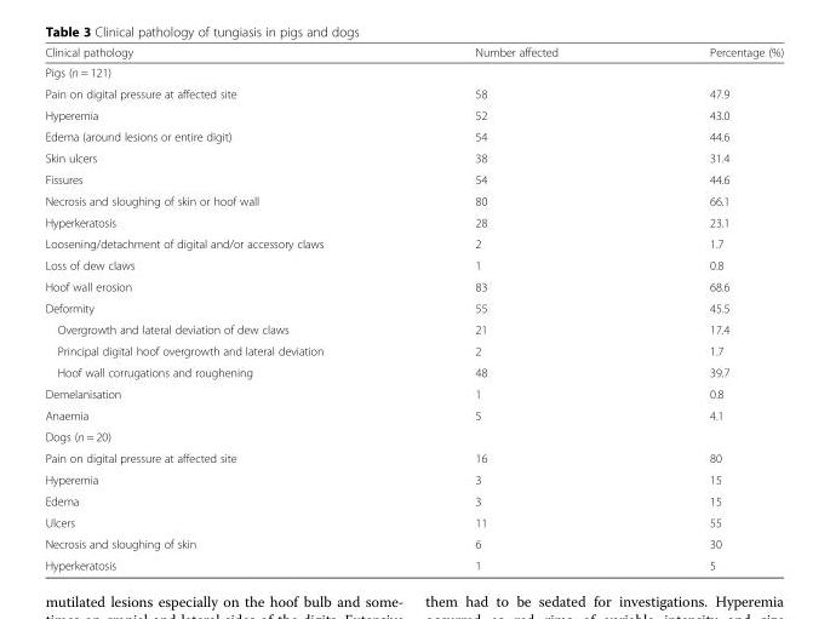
<table><thead><tr><td>Clinical pathology</td><td>Number affected</td><td>Percentage (%)</td></tr></thead><tbody><tr><td colspan="3">Pigs (n = 121)</td></tr><tr><td>Pain on digital pressure at affected site</td><td>58</td><td>47.9</td></tr><tr><td>Hyperemia</td><td>52</td><td>43.0</td></tr><tr><td>Edema (around lesions or entire digit)</td><td>54</td><td>44.6</td></tr><tr><td>Skin ulcers</td><td>38</td><td>31.4</td></tr><tr><td>Fissures</td><td>54</td><td>44.6</td></tr><tr><td>Necrosis and sloughing of skin or hoof wall</td><td>80</td><td>66.1</td></tr><tr><td>Hyperkeratosis</td><td>28</td><td>23.1</td></tr><tr><td>Loosening/detachment of digital and/or accessory claws</td><td>2</td><td>1.7</td></tr><tr><td>Loss of dew claws</td><td>1</td><td>0.8</td></tr><tr><td>Hoof wall erosion</td><td>83</td><td>68.6</td></tr><tr><td>Deformity</td><td>55</td><td>45.5</td></tr><tr><td>Overgrowth and lateral deviation of dew claws</td><td>21</td><td>17.4</td></tr><tr><td>Principal digital hoof overgrowth and lateral deviation</td><td>2</td><td>1.7</td></tr><tr><td>Hoof wall corrugations and roughening</td><td>48</td><td>39.7</td></tr><tr><td>Demelanisation</td><td>1</td><td>0.8</td></tr><tr><td>Anaemia</td><td>5</td><td>4.1</td></tr><tr><td colspan="3">Dogs (n = 20)</td></tr><tr><td>Pain on digital pressure at affected site</td><td>16</td><td>80</td></tr><tr><td>Hyperemia</td><td>3</td><td>15</td></tr><tr><td>Edema</td><td>3</td><td>15</td></tr><tr><td>Ulcers</td><td>11</td><td>55</td></tr><tr><td>Necrosis and sloughing of skin</td><td>6</td><td>30</td></tr><tr><td>Hyperkeratosis</td><td>1</td><td>5</td></tr></tbody></table>